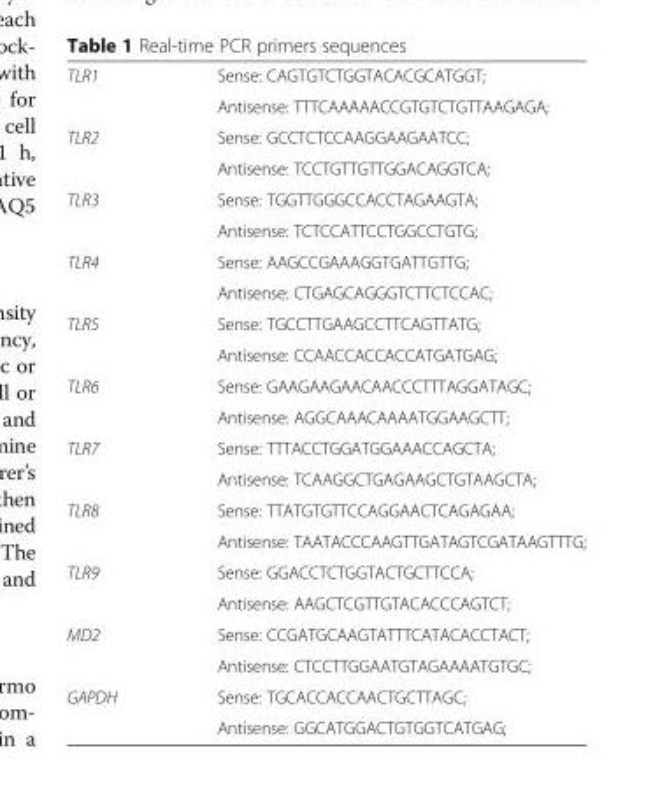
<table><tbody><tr><td rowspan="2">TLR1</td><td>Sense: CAGTGTCTGGTACACGCATGGT;</td></tr><tr><td>Antisense: TTTCAAAAACCGTGTCTGTTAAGAGA;</td></tr><tr><td rowspan="2">TLR2</td><td>Sense: GCCTCTCCAAGGAAGAATCC;</td></tr><tr><td>Antisense: TCCTGTTGTTGGACAGGTCA;</td></tr><tr><td rowspan="2">TLR3</td><td>Sense: TGGTTGGGCCACCTAGAAGTA;</td></tr><tr><td>Antisense: TCTCCATTCCTGGCCTGTG;</td></tr><tr><td rowspan="2">TLR4</td><td>Sense: AAGCCGAAAGGTGATTGTTG;</td></tr><tr><td>Antisense: CTGAGCAGGGTCTTCTCCAC;</td></tr><tr><td rowspan="2">TLR5</td><td>Sense: TGCCTTGAAGCCTTCAGTTATG;</td></tr><tr><td>Antisense: CCAACCACCACCATGATGAG;</td></tr><tr><td rowspan="2">TLR6</td><td>Sense: GAAGAAGAACAACCCTTTAGGATAGC;</td></tr><tr><td>Antisense: AGGCAAACAAAATGGAAGCTT;</td></tr><tr><td rowspan="2">TLR7</td><td>Sense: TTTACCTGGATGGAAACCAGCTA;</td></tr><tr><td>Antisense: TCAAGGCTGAGAAGCTGTAAGCTA;</td></tr><tr><td rowspan="2">TLR8</td><td>Sense: TTATGTGTTCCAGGAACTCAGAGAA;</td></tr><tr><td>Antisense: TAATACCCAAGTTGATAGTCGATAAGTTTG;</td></tr><tr><td rowspan="2">TLR9</td><td>Sense: GGACCTCTGGTACTGCTTCCA;</td></tr><tr><td>Antisense: AAGCTCGTTGTACACCCAGTCT;</td></tr><tr><td rowspan="2">MD2</td><td>Sense: CCGATGCAAGTATTTCATACACCTACT;</td></tr><tr><td>Antisense: CTCCTTGGAATGTAGAAAATGTGC;</td></tr><tr><td rowspan="2">GAPDH</td><td>Sense: TGCACCACCAACTGCTTAGC;</td></tr><tr><td>Antisense: GGCATGGACTGTGGTCATGAG;</td></tr></tbody></table>